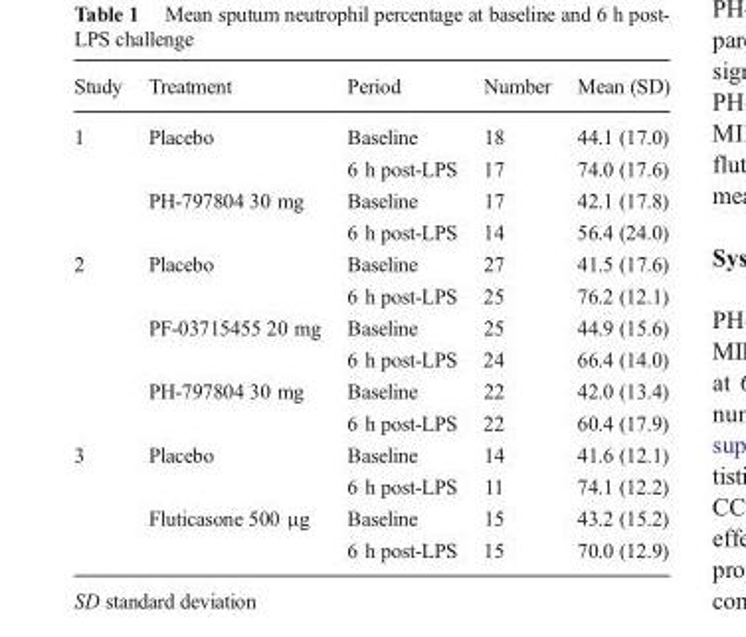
<table><thead><tr><td>Study</td><td>Treatment</td><td>Period</td><td>Number</td><td>Mean (SD)</td></tr></thead><tbody><tr><td rowspan="4">1</td><td rowspan="2">Placebo</td><td>Baseline</td><td>18</td><td>44.1 (17.0)</td></tr><tr><td>6 h post-LPS</td><td>17</td><td>74.0 (17.6)</td></tr><tr><td rowspan="2">PH-797804 30 mg</td><td>Baseline</td><td>17</td><td>42.1 (17.8)</td></tr><tr><td>6 h post-LPS</td><td>14</td><td>56.4 (24.0)</td></tr><tr><td rowspan="6">2</td><td rowspan="2">Placebo</td><td>Baseline</td><td>27</td><td>41.5 (17.6)</td></tr><tr><td>6 h post-LPS</td><td>25</td><td>76.2 (12.1)</td></tr><tr><td rowspan="2">PF-03715455 20 mg</td><td>Baseline</td><td>25</td><td>44.9 (15.6)</td></tr><tr><td>6 h post-LPS</td><td>24</td><td>66.4 (14.0)</td></tr><tr><td rowspan="2">PH-797804 30 mg</td><td>Baseline</td><td>22</td><td>42.0 (13.4)</td></tr><tr><td>6 h post-LPS</td><td>22</td><td>60.4 (17.9)</td></tr><tr><td rowspan="4">3</td><td rowspan="2">Placebo</td><td>Baseline</td><td>14</td><td>41.6 (12.1)</td></tr><tr><td>6 h post-LPS</td><td>11</td><td>74.1 (12.2)</td></tr><tr><td rowspan="2">Fluticasone 500 μg</td><td>Baseline</td><td>15</td><td>43.2 (15.2)</td></tr><tr><td>6 h post-LPS</td><td>15</td><td>70.0 (12.9)</td></tr></tbody></table>